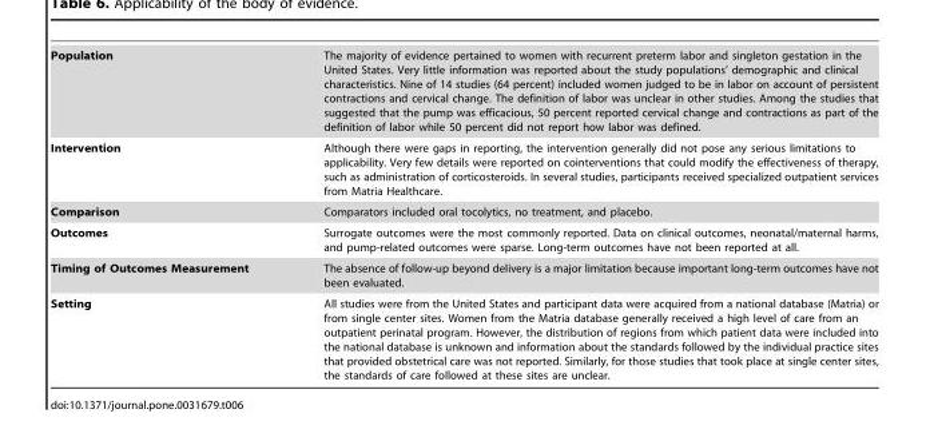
<table><tbody><tr><td>Population</td><td>The majority of evidence pertained to women with recurrent preterm labor and singleton gestation in the United States. Very little information was reported about the study populations’ demographic and clinical characteristics. Nine of 14 studies (64 percent) included women judged to be in labor on account of persistent contractions and cervical change. The definition of labor was unclear in other studies. Among the studies that suggested that the pump was efficacious, 50 percent reported cervical change and contractions as part of the definition of labor while 50 percent did not report how labor was defined.</td></tr><tr><td>Intervention</td><td>Although there were gaps in reporting, the intervention generally did not pose any serious limitations to applicability. Very few details were reported on cointerventions that could modify the effectiveness of therapy, such as administration of corticosteroids. In several studies, participants received specialized outpatient services from Matria Healthcare.</td></tr><tr><td>Comparison</td><td>Comparators included oral tocolytics, no treatment, and placebo.</td></tr><tr><td>Outcomes</td><td>Surrogate outcomes were the most commonly reported. Data on clinical outcomes, neonatal/maternal harms, and pump-related outcomes were sparse. Long-term outcomes have not been reported at all.</td></tr><tr><td>Timing of Outcomes Measurement</td><td>The absence of follow-up beyond delivery is a major limitation because important long-term outcomes have not been evaluated.</td></tr><tr><td>Setting</td><td>All studies were from the United States and participant data were acquired from a national database (Matria) or from single center sites. Women from the Matria database generally received a high level of care from an outpatient perinatal program. However, the distribution of regions from which patient data were included into the national database is unknown and information about the standards followed by the individual practice sites that provided obstetrical care was not reported. Similarly, for those studies that took place at single center sites, the standards of care followed at these sites are unclear.</td></tr></tbody></table>